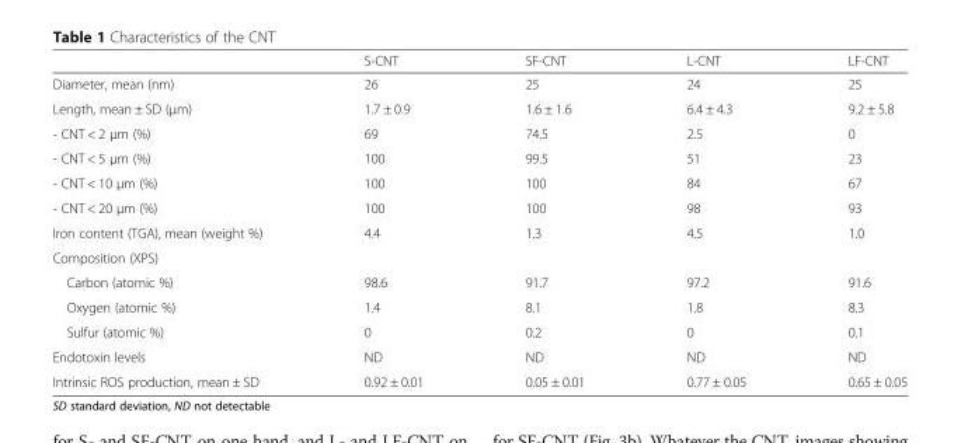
<table><thead><tr><td></td><td>S-CNT</td><td>SF-CNT</td><td>L-CNT</td><td>LF-CNT</td></tr></thead><tbody><tr><td>Diameter, mean (nm)</td><td>26</td><td>25</td><td>24</td><td>25</td></tr><tr><td>Length, mean ± SD (μm)</td><td>1.7 ± 0.9</td><td>1.6 ± 1.6</td><td>6.4 ± 4.3</td><td>9.2 ± 5.8</td></tr><tr><td>- CNT &lt; 2 μm (%)</td><td>69</td><td>74.5</td><td>2.5</td><td>0</td></tr><tr><td>- CNT &lt; 5 μm (%)</td><td>100</td><td>99.5</td><td>51</td><td>23</td></tr><tr><td>- CNT &lt; 10 μm (%)</td><td>100</td><td>100</td><td>84</td><td>67</td></tr><tr><td>- CNT &lt; 20 μm (%)</td><td>100</td><td>100</td><td>98</td><td>93</td></tr><tr><td>Iron content (TGA), mean (weight %)</td><td>4.4</td><td>1.3</td><td>4.5</td><td>1.0</td></tr><tr><td colspan="5">Composition (XPS)</td></tr><tr><td>Carbon (atomic %)</td><td>98.6</td><td>91.7</td><td>97.2</td><td>91.6</td></tr><tr><td>Oxygen (atomic %)</td><td>1.4</td><td>8.1</td><td>1.8</td><td>8.3</td></tr><tr><td>Sulfur (atomic %)</td><td>0</td><td>0.2</td><td>0</td><td>0.1</td></tr><tr><td>Endotoxin levels</td><td>ND</td><td>ND</td><td>ND</td><td>ND</td></tr><tr><td>Intrinsic ROS production, mean ± SD</td><td>0.92 ± 0.01</td><td>0.05 ± 0.01</td><td>0.77 ± 0.05</td><td>0.65 ± 0.05</td></tr></tbody></table>